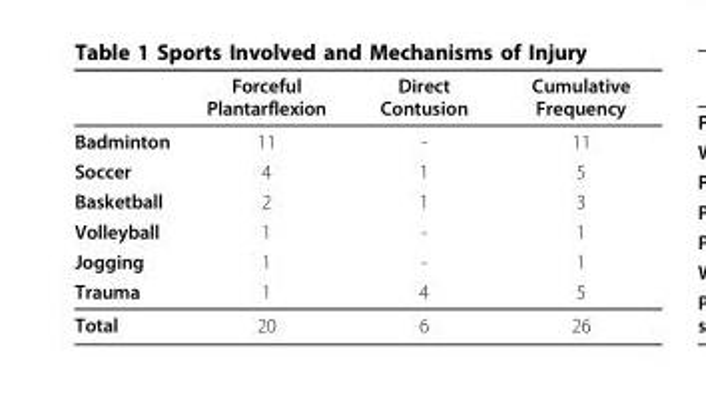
<table><thead><tr><td></td><td>Forceful Plantarflexion</td><td>Direct Contusion</td><td>Cumulative Frequency</td></tr></thead><tbody><tr><td>Badminton</td><td>11</td><td>-</td><td>11</td></tr><tr><td>Soccer</td><td>4</td><td>1</td><td>5</td></tr><tr><td>Basketball</td><td>2</td><td>1</td><td>3</td></tr><tr><td>Volleyball</td><td>1</td><td>-</td><td>1</td></tr><tr><td>Jogging</td><td>1</td><td>-</td><td>1</td></tr><tr><td>Trauma</td><td>1</td><td>4</td><td>5</td></tr><tr><td>Total</td><td>20</td><td>6</td><td>26</td></tr></tbody></table>